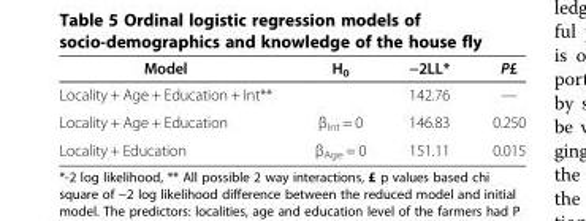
<table><thead><tr><td>Model</td><td>H<sub>0</sub></td><td>−2LL*</td><td>P£</td></tr></thead><tbody><tr><td>Locality + Age + Education + Int**</td><td></td><td>142.76</td><td>—</td></tr><tr><td>Locality + Age + Education</td><td>β<sub>Int</sub> = 0</td><td>146.83</td><td>0.250</td></tr><tr><td>Locality + Education</td><td>β<sub>Age</sub> = 0</td><td>151.11</td><td>0.015</td></tr></tbody></table>